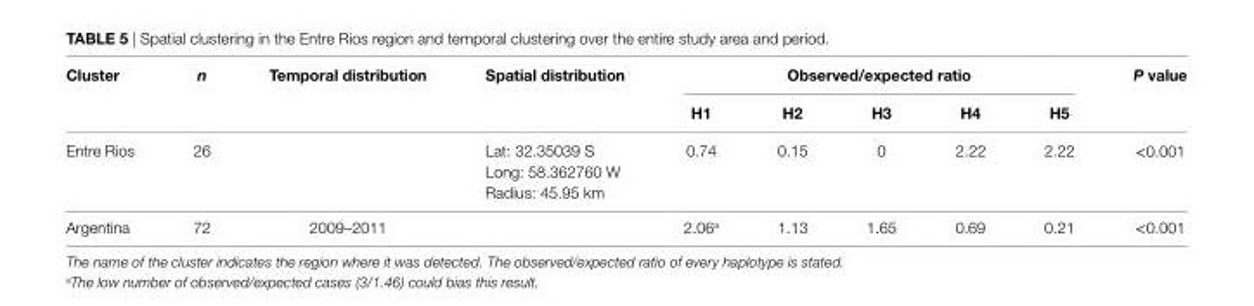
<table><thead><tr><td rowspan="2">cluster</td><td rowspan="2">n</td><td rowspan="2">Temporal distribution</td><td rowspan="2">spatial distribution</td><td colspan="5">Observed/expected ratio</td><td rowspan="2">P value</td></tr><tr><td>h1</td><td>h2</td><td>h3</td><td>h4</td><td>h5</td></tr></thead><tbody><tr><td rowspan="3">Entre Rios</td><td rowspan="3">26</td><td rowspan="3"></td><td>Lat: 32.35039 S</td><td rowspan="3">0.74</td><td rowspan="3">0.15</td><td rowspan="3">0</td><td rowspan="3">2.22</td><td rowspan="3">2.22</td><td rowspan="3">&lt;0.001</td></tr><tr><td>Long: 58.362760 W</td></tr><tr><td>Radius: 45.95 km</td></tr><tr><td>Argentina</td><td>72</td><td>2009–2011</td><td></td><td>2.06<sup>a</sup></td><td>1.13</td><td>1.65</td><td>0.69</td><td>0.21</td><td>&lt;0.001</td></tr></tbody></table>